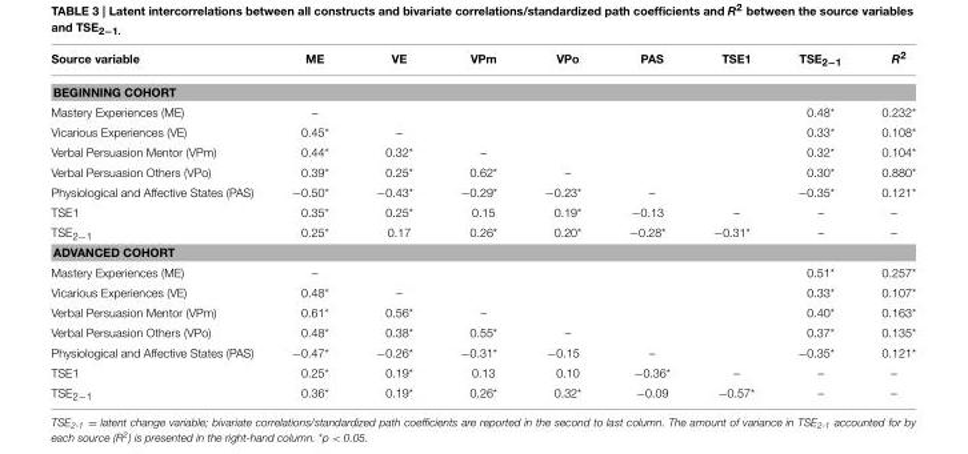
<table><thead><tr><td>Source variable</td><td>ME</td><td>VE</td><td>VPm</td><td>VPo</td><td>PAS</td><td>TSE1</td><td>TSE<sub>2−1</sub></td><td>R<sup>2</sup></td></tr></thead><tbody><tr><td colspan="9">BEGINNING COHORT</td></tr><tr><td>Mastery Experiences (ME)</td><td>–</td><td></td><td></td><td></td><td></td><td></td><td>0.48*</td><td>0.232*</td></tr><tr><td>Vicarious Experiences (VE)</td><td>0.45*</td><td>–</td><td></td><td></td><td></td><td></td><td>0.33*</td><td>0.108*</td></tr><tr><td>Verbal Persuasion Mentor (VPm)</td><td>0.44*</td><td>0.32*</td><td>–</td><td></td><td></td><td></td><td>0.32*</td><td>0.104*</td></tr><tr><td>Verbal Persuasion Others (VPo)</td><td>0.39*</td><td>0.25*</td><td>0.62*</td><td>–</td><td></td><td></td><td>0.30*</td><td>0.880*</td></tr><tr><td>Physiological and Affective States (PAS)</td><td>−0.50*</td><td>−0.43*</td><td>−0.29*</td><td>−0.23*</td><td>–</td><td></td><td>−0.35*</td><td>0.121*</td></tr><tr><td>TSE1</td><td>0.35*</td><td>0.25*</td><td>0.15</td><td>0.19*</td><td>−0.13</td><td>–</td><td>–</td><td>–</td></tr><tr><td>TSE<sub>2−1</sub></td><td>0.25*</td><td>0.17</td><td>0.26*</td><td>0.20*</td><td>−0.28*</td><td>−0.31*</td><td>–</td><td>–</td></tr><tr><td colspan="9">ADVANCED COHORT</td></tr><tr><td>Mastery Experiences (ME)</td><td>–</td><td></td><td></td><td></td><td></td><td></td><td>0.51*</td><td>0.257*</td></tr><tr><td>Vicarious Experiences (VE)</td><td>0.48*</td><td>–</td><td></td><td></td><td></td><td></td><td>0.33*</td><td>0.107*</td></tr><tr><td>Verbal Persuasion Mentor (VPm)</td><td>0.61*</td><td>0.56*</td><td>–</td><td></td><td></td><td></td><td>0.40*</td><td>0.163*</td></tr><tr><td>Verbal Persuasion Others (VPo)</td><td>0.48*</td><td>0.38*</td><td>0.55*</td><td>–</td><td></td><td></td><td>0.37*</td><td>0.135*</td></tr><tr><td>Physiological and Affective States (PAS)</td><td>−0.47*</td><td>−0.26*</td><td>−0.31*</td><td>−0.15</td><td>–</td><td></td><td>−0.35*</td><td>0.121*</td></tr><tr><td>TSE1</td><td>0.25*</td><td>0.19*</td><td>0.13</td><td>0.10</td><td>−0.36*</td><td>–</td><td>–</td><td>–</td></tr><tr><td>TSE<sub>2−1</sub></td><td>0.36*</td><td>0.19*</td><td>0.26*</td><td>0.32*</td><td>−0.09</td><td>−0.57*</td><td>–</td><td>–</td></tr></tbody></table>